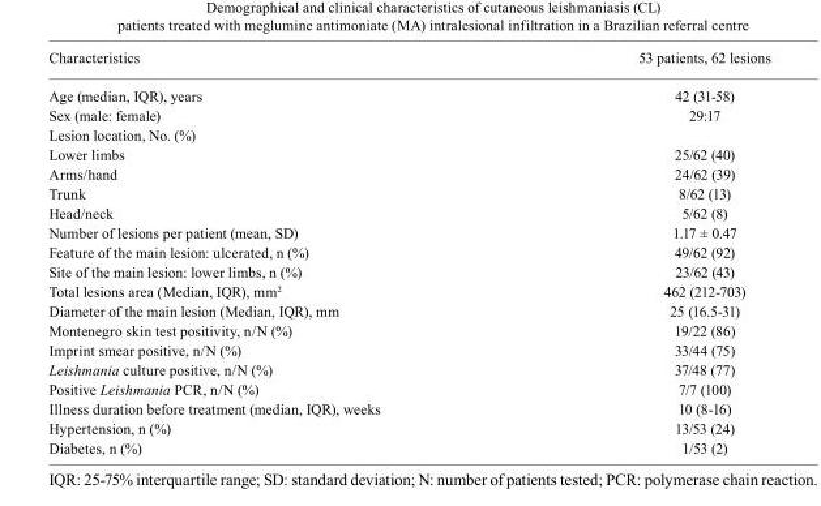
<table><tbody><tr><td>Characteristics</td><td>53 patients, 62 lesions</td></tr><tr><td>Age (median, IQR), years</td><td>42 (31-58)</td></tr><tr><td>Sex (male: female)</td><td>29:17</td></tr><tr><td colspan="2">Lesion location, No. (%)</td></tr><tr><td>Lower limbs</td><td>25/62 (40)</td></tr><tr><td>Arms/hand</td><td>24/62 (39)</td></tr><tr><td>Trunk</td><td>8/62 (13)</td></tr><tr><td>Head/neck</td><td>5/62 (8)</td></tr><tr><td>Number of lesions per patient (mean, SD)</td><td>1.17 ± 0.47</td></tr><tr><td>Feature of the main lesion: ulcerated, n (%)</td><td>49/62 (92)</td></tr><tr><td>Site of the main lesion: lower limbs, n (%)</td><td>23/62 (43)</td></tr><tr><td>Total lesions area (Median, IQR), mm<sup>2</sup></td><td>462 (212-703)</td></tr><tr><td>Diameter of the main lesion (Median, IQR), mm</td><td>25 (16.5-31)</td></tr><tr><td>Montenegro skin test positivity, n/N (%)</td><td>19/22 (86)</td></tr><tr><td>Imprint smear positive, n/N (%)</td><td>33/44 (75)</td></tr><tr><td>Leishmania culture positive, n/N (%)</td><td>37/48 (77)</td></tr><tr><td>Positive Leishmania PCR, n/N (%)</td><td>7/7 (100)</td></tr><tr><td>Illness duration before treatment (median, IQR), weeks</td><td>10 (8-16)</td></tr><tr><td>Hypertension, n (%)</td><td>13/53 (24)</td></tr><tr><td>Diabetes, n (%)</td><td>1/53 (2)</td></tr></tbody></table>